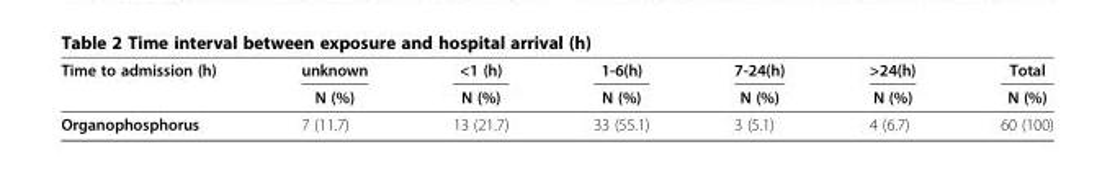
<table><thead><tr><td rowspan="2">Time to admission (h)</td><td rowspan="2">unknown N (%)</td><td rowspan="2">&lt;1 (h) N (%)</td><td rowspan="2">1-6(h) N (%)</td><td rowspan="2">7-24(h) N (%)</td><td rowspan="2">&gt;24(h) N (%)</td><td rowspan="2">Total N (%)</td></tr><tr></tr></thead><tbody><tr><td>Organophosphorus</td><td>7 (11.7)</td><td>13 (21.7)</td><td>33 (55.1)</td><td>3 (5.1)</td><td>4 (6.7)</td><td>60 (100)</td></tr></tbody></table>